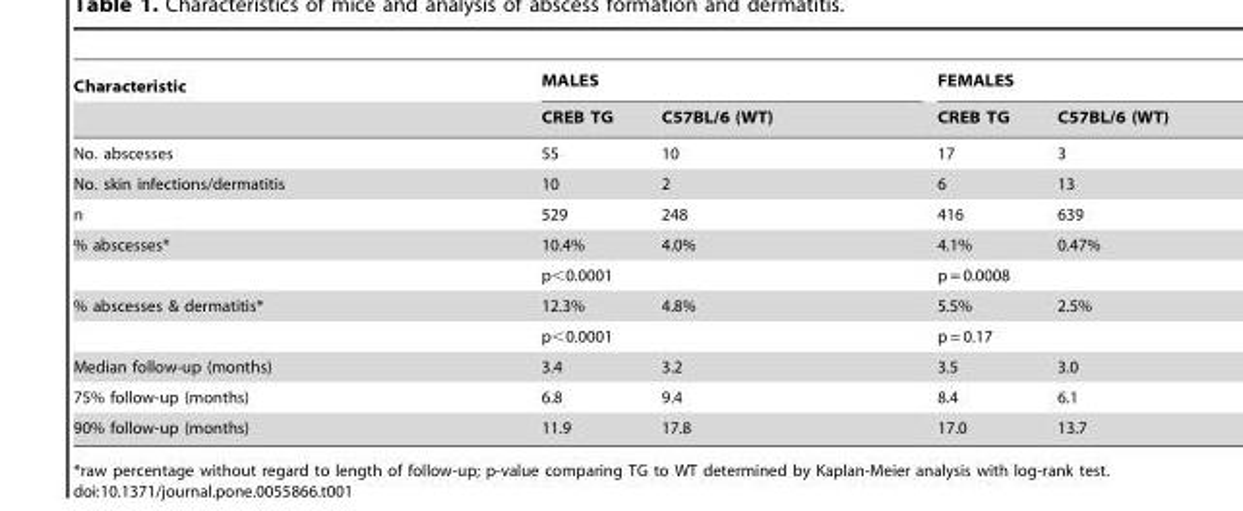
<table><thead><tr><td rowspan="2">Characteristic</td><td colspan="2">MALES</td><td colspan="2">FEMALES</td></tr><tr><td>CREB TG</td><td>C57BL/6 (WT)</td><td>CREB TG</td><td>C57BL/6 (WT)</td></tr></thead><tbody><tr><td>No. abscesses</td><td>55</td><td>10</td><td>17</td><td>3</td></tr><tr><td>No. skin infections/dermatitis</td><td>10</td><td>2</td><td>6</td><td>13</td></tr><tr><td>n</td><td>529</td><td>248</td><td>416</td><td>639</td></tr><tr><td rowspan="2">% abscesses*</td><td>10.4%</td><td>4.0%</td><td>4.1%</td><td>0.47%</td></tr><tr><td colspan="2">p&lt;0.0001</td><td colspan="2">p = 0.0008</td></tr><tr><td rowspan="2">% abscesses &amp; dermatitis*</td><td>12.3%</td><td>4.8%</td><td>5.5%</td><td>2.5%</td></tr><tr><td colspan="2">p&lt;0.0001</td><td colspan="2">p = 0.17</td></tr><tr><td>Median follow-up (months)</td><td>3.4</td><td>3.2</td><td>3.5</td><td>3.0</td></tr><tr><td>75% follow-up (months)</td><td>6.8</td><td>9.4</td><td>8.4</td><td>6.1</td></tr><tr><td>90% follow-up (months)</td><td>11.9</td><td>17.8</td><td>17.0</td><td>13.7</td></tr></tbody></table>